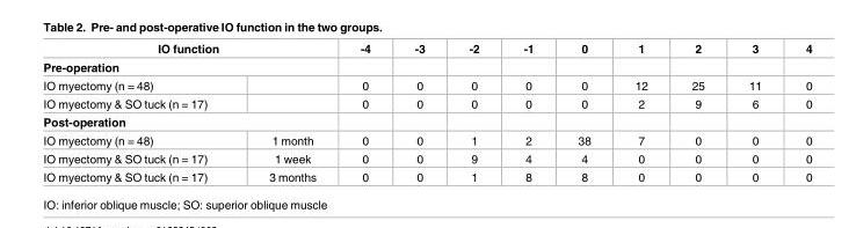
<table><thead><tr><td rowspan="2" colspan="2">IO function Pre-operation</td><td rowspan="3">-4 0</td><td rowspan="3">-3 0</td><td rowspan="3">-2 0</td><td rowspan="3">-1 0</td><td rowspan="3">0 0</td><td rowspan="3">1 12</td><td rowspan="3">2 25</td><td rowspan="3">3 11</td><td rowspan="3">4 0</td></tr><tr></tr><tr><td>IO myectomy (n = 48)</td><td></td></tr></thead><tbody><tr><td>IO myectomy &amp; SO tuck (n = 17)</td><td></td><td>0</td><td>0</td><td>0</td><td>0</td><td>0</td><td>2</td><td>9</td><td>6</td><td>0</td></tr><tr><td colspan="11">Post-operation</td></tr><tr><td>IO myectomy (n = 48)</td><td>1 month</td><td>0</td><td>0</td><td>1</td><td>2</td><td>38</td><td>7</td><td>0</td><td>0</td><td>0</td></tr><tr><td>IO myectomy &amp; SO tuck (n = 17)</td><td>1 week</td><td>0</td><td>0</td><td>9</td><td>4</td><td>4</td><td>0</td><td>0</td><td>0</td><td>0</td></tr><tr><td>IO myectomy &amp; SO tuck (n = 17)</td><td>3 months</td><td>0</td><td>0</td><td>1</td><td>8</td><td>8</td><td>0</td><td>0</td><td>0</td><td>0</td></tr></tbody></table>